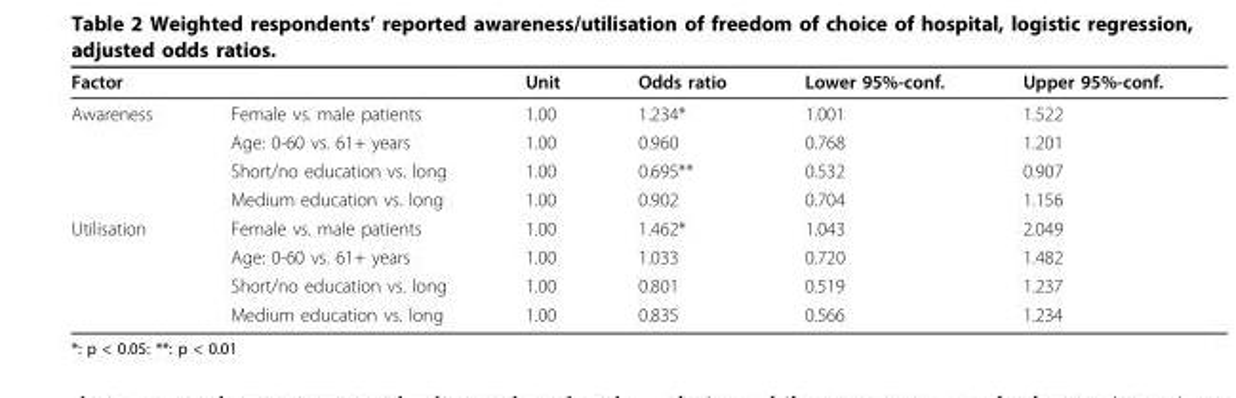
<table><thead><tr><td>Factor</td><td></td><td>Unit</td><td>Odds ratio</td><td>Lower 95%-conf.</td><td>Upper 95%-conf.</td></tr></thead><tbody><tr><td rowspan="4">Awareness</td><td>Female vs. male patients</td><td>1.00</td><td>1.234*</td><td>1.001</td><td>1.522</td></tr><tr><td>Age: 0-60 vs. 61+ years</td><td>1.00</td><td>0.960</td><td>0.768</td><td>1.201</td></tr><tr><td>Short/no education vs. long</td><td>1.00</td><td>0.695**</td><td>0.532</td><td>0.907</td></tr><tr><td>Medium education vs. long</td><td>1.00</td><td>0.902</td><td>0.704</td><td>1.156</td></tr><tr><td rowspan="4">Utilisation</td><td>Female vs. male patients</td><td>1.00</td><td>1.462*</td><td>1.043</td><td>2.049</td></tr><tr><td>Age: 0-60 vs. 61+ years</td><td>1.00</td><td>1.033</td><td>0.720</td><td>1.482</td></tr><tr><td>Short/no education vs. long</td><td>1.00</td><td>0.801</td><td>0.519</td><td>1.237</td></tr><tr><td>Medium education vs. long</td><td>1.00</td><td>0.835</td><td>0.566</td><td>1.234</td></tr></tbody></table>